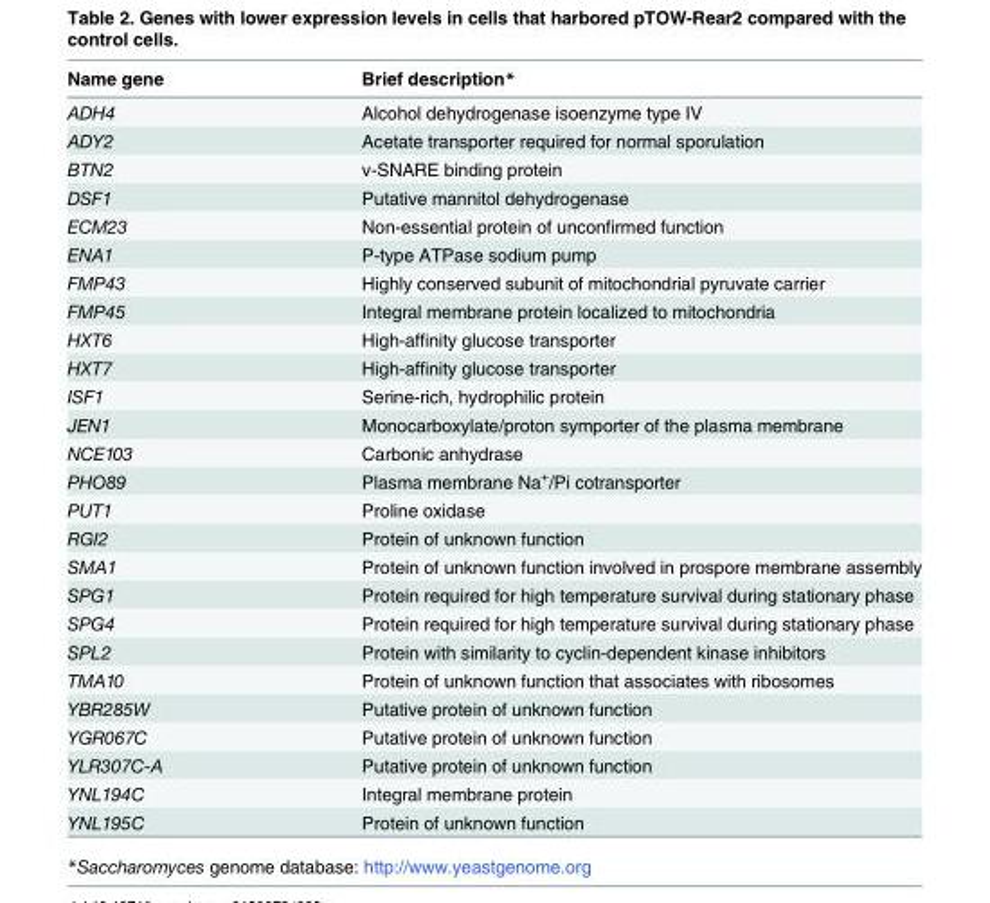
<table><thead><tr><td>Name gene</td><td>Brief description*</td></tr></thead><tbody><tr><td>ADH4</td><td>Alcohol dehydrogenase isoenzyme type IV</td></tr><tr><td>ADY2</td><td>Acetate transporter required for normal sporulation</td></tr><tr><td>BTN2</td><td>v-SNARE binding protein</td></tr><tr><td>DSF1</td><td>Putative mannitol dehydrogenase</td></tr><tr><td>ECM23</td><td>Non-essential protein of unconfirmed function</td></tr><tr><td>ENA1</td><td>P-type ATPase sodium pump</td></tr><tr><td>FMP43</td><td>Highly conserved subunit of mitochondrial pyruvate carrier</td></tr><tr><td>FMP45</td><td>Integral membrane protein localized to mitochondria</td></tr><tr><td>HXT6</td><td>High-affinity glucose transporter</td></tr><tr><td>HXT7</td><td>High-affinity glucose transporter</td></tr><tr><td>ISF1</td><td>Serine-rich, hydrophilic protein</td></tr><tr><td>JEN1</td><td>Monocarboxylate/proton symporter of the plasma membrane</td></tr><tr><td>NCE103</td><td>Carbonic anhydrase</td></tr><tr><td>PHO89</td><td>Plasma membrane Na<sup>+</sup>/Pi cotransporter</td></tr><tr><td>PUT1</td><td>Proline oxidase</td></tr><tr><td>RGI2</td><td>Protein of unknown function</td></tr><tr><td>SMA1</td><td>Protein of unknown function involved in prospore membrane assembly</td></tr><tr><td>SPG1</td><td>Protein required for high temperature survival during stationary phase</td></tr><tr><td>SPG4</td><td>Protein required for high temperature survival during stationary phase</td></tr><tr><td>SPL2</td><td>Protein with similarity to cyclin-dependent kinase inhibitors</td></tr><tr><td>TMA10</td><td>Protein of unknown function that associates with ribosomes</td></tr><tr><td>YBR285W</td><td>Putative protein of unknown function</td></tr><tr><td>YGR067C</td><td>Putative protein of unknown function</td></tr><tr><td>YLR307C-A</td><td>Putative protein of unknown function</td></tr><tr><td>YNL194C</td><td>Integral membrane protein</td></tr><tr><td>YNL195C</td><td>Protein of unknown function</td></tr></tbody></table>